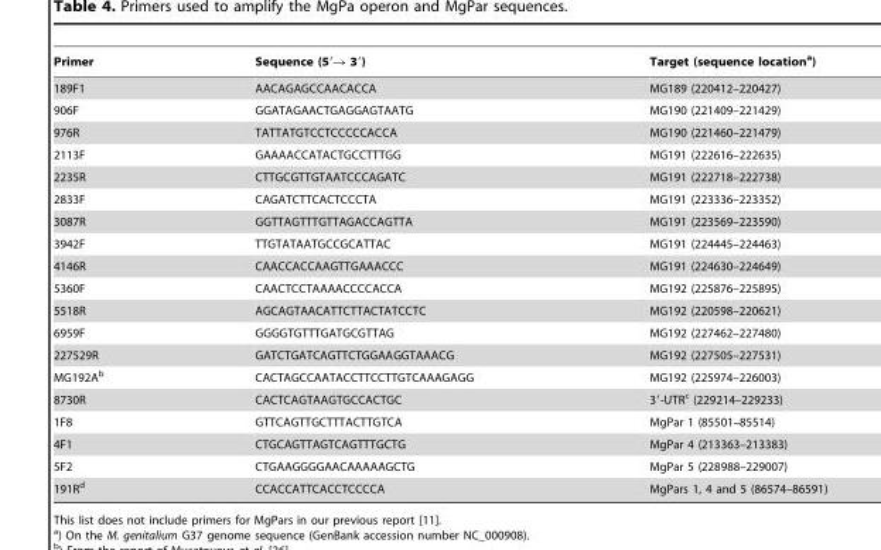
<table><thead><tr><td>Primer</td><td>Sequence (5′→ 3′)</td><td>Target (sequence location<sup>a</sup>)</td></tr></thead><tbody><tr><td>189F1</td><td>AACAGAGCCAACACCA</td><td>MG189 (220412–220427)</td></tr><tr><td>906F</td><td>GGATAGAACTGAGGAGTAATG</td><td>MG190 (221409–221429)</td></tr><tr><td>976R</td><td>TATTATGTCCTCCCCCACCA</td><td>MG190 (221460–221479)</td></tr><tr><td>2113F</td><td>GAAAACCATACTGCCTTTGG</td><td>MG191 (222616–222635)</td></tr><tr><td>2235R</td><td>CTTGCGTTGTAATCCCAGATC</td><td>MG191 (222718–222738)</td></tr><tr><td>2833F</td><td>CAGATCTTCACTCCCTA</td><td>MG191 (223336–223352)</td></tr><tr><td>3087R</td><td>GGTTAGTTTGTTAGACCAGTTA</td><td>MG191 (223569–223590)</td></tr><tr><td>3942F</td><td>TTGTATAATGCCGCATTAC</td><td>MG191 (224445–224463)</td></tr><tr><td>4146R</td><td>CAACCACCAAGTTGAAACCC</td><td>MG191 (224630–224649)</td></tr><tr><td>5360F</td><td>CAACTCCTAAAACCCCACCA</td><td>MG192 (225876–225895)</td></tr><tr><td>5518R</td><td>AGCAGTAACATTCTTACTATCCTC</td><td>MG192 (220598–220621)</td></tr><tr><td>6959F</td><td>GGGGTGTTTGATGCGTTAG</td><td>MG192 (227462–227480)</td></tr><tr><td>227529R</td><td>GATCTGATCAGTTCTGGAAGGTAAACG</td><td>MG192 (227505–227531)</td></tr><tr><td>MG192A<sup>b</sup></td><td>CACTAGCCAATACCTTCCTTGTCAAAGAGG</td><td>MG192 (225974–226003)</td></tr><tr><td>8730R</td><td>CACTCAGTAAGTGCCACTGC</td><td>3′-UTR<sup>c</sup> (229214–229233)</td></tr><tr><td>1F8</td><td>GTTCAGTTGCTTTACTTGTCA</td><td>MgPar 1 (85501–85514)</td></tr><tr><td>4F1</td><td>CTGCAGTTAGTCAGTTTGCTG</td><td>MgPar 4 (213363–213383)</td></tr><tr><td>5F2</td><td>CTGAAGGGGAACAAAAAGCTG</td><td>MgPar 5 (228988–229007)</td></tr><tr><td>191R<sup>d</sup></td><td>CCACCATTCACCTCCCCA</td><td>MgPars 1, 4 and 5 (86574–86591)</td></tr></tbody></table>